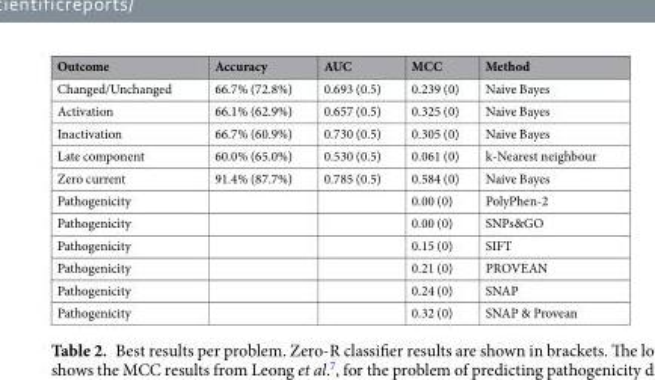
<table><thead><tr><td>Outcome</td><td>Accuracy</td><td>AUC</td><td>MCC</td><td>Method</td></tr></thead><tbody><tr><td>Changed/Unchanged</td><td>66.7% (72.8%)</td><td>0.693 (0.5)</td><td>0.239 (0)</td><td>Naive Bayes</td></tr><tr><td>Activation</td><td>66.1% (62.9%)</td><td>0.657 (0.5)</td><td>0.325 (0)</td><td>Naive Bayes</td></tr><tr><td>Inactivation</td><td>66.7% (60.9%)</td><td>0.730 (0.5)</td><td>0.305 (0)</td><td>Naive Bayes</td></tr><tr><td>Late component</td><td>60.0% (65.0%)</td><td>0.530 (0.5)</td><td>0.061 (0)</td><td>k-Nearest neighbour</td></tr><tr><td>Zero current</td><td>91.4% (87.7%)</td><td>0.785 (0.5)</td><td>0.584 (0)</td><td>Naive Bayes</td></tr><tr><td>Pathogenicity</td><td></td><td></td><td>0.00 (0)</td><td>PolyPhen-2</td></tr><tr><td>Pathogenicity</td><td></td><td></td><td>0.00 (0)</td><td>SNPs&amp;GO</td></tr><tr><td>Pathogenicity</td><td></td><td></td><td>0.15 (0)</td><td>SIFT</td></tr><tr><td>Pathogenicity</td><td></td><td></td><td>0.21 (0)</td><td>PROVEAN</td></tr><tr><td>Pathogenicity</td><td></td><td></td><td>0.24 (0)</td><td>SNAP</td></tr><tr><td>Pathogenicity</td><td></td><td></td><td>0.32 (0)</td><td>SNAP &amp; Provean</td></tr></tbody></table>